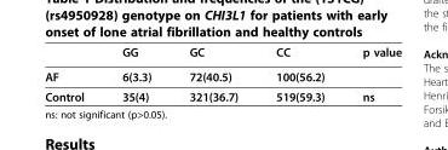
<table><thead><tr><td></td><td>GG</td><td>GC</td><td>CC</td><td>p value</td></tr></thead><tbody><tr><td>AF</td><td>6(3.3)</td><td>72(40.5)</td><td>100(56.2)</td><td></td></tr><tr><td>Control</td><td>35(4)</td><td>321(36.7)</td><td>519(59.3)</td><td>ns</td></tr></tbody></table>